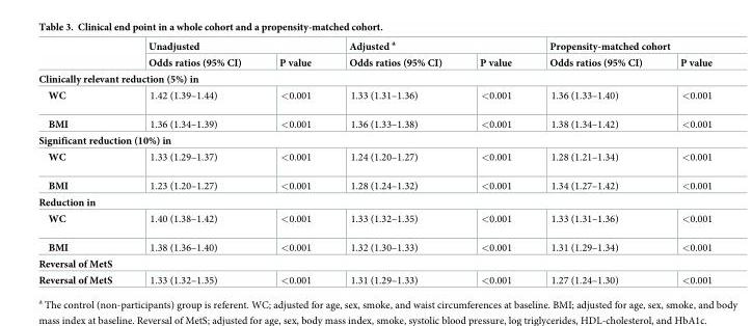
<table><thead><tr><td rowspan="2"></td><td colspan="2">Unadjusted</td><td colspan="2">Adjusted <sup>a</sup></td><td colspan="2">Propensity-matched cohort</td></tr><tr><td>Odds ratios (95% CI)</td><td>P value</td><td>Odds ratios (95% CI)</td><td>P value</td><td>Odds ratios (95% CI)</td><td>P value</td></tr></thead><tbody><tr><td colspan="7">Clinically relevant reduction (5%) in</td></tr><tr><td>WC</td><td>1.42 (1.39–1.44)</td><td>&lt;0.001</td><td>1.33 (1.31–1.36)</td><td>&lt;0.001</td><td>1.36 (1.33–1.40)</td><td>&lt;0.001</td></tr><tr><td>BMI</td><td>1.36 (1.34–1.39)</td><td>&lt;0.001</td><td>1.36 (1.33–1.38)</td><td>&lt;0.001</td><td>1.38 (1.34–1.42)</td><td>&lt;0.001</td></tr><tr><td colspan="7">Significant reduction (10%) in</td></tr><tr><td>WC</td><td>1.33 (1.29–1.37)</td><td>&lt;0.001</td><td>1.24 (1.20–1.27)</td><td>&lt;0.001</td><td>1.28 (1.21–1.34)</td><td>&lt;0.001</td></tr><tr><td>BMI</td><td>1.23 (1.20–1.27)</td><td>&lt;0.001</td><td>1.28 (1.24–1.32)</td><td>&lt;0.001</td><td>1.34 (1.27–1.42)</td><td>&lt;0.001</td></tr><tr><td colspan="7">Reduction in</td></tr><tr><td>WC</td><td>1.40 (1.38–1.42)</td><td>&lt;0.001</td><td>1.33 (1.32–1.35)</td><td>&lt;0.001</td><td>1.33 (1.31–1.36)</td><td>&lt;0.001</td></tr><tr><td>BMI</td><td>1.38 (1.36–1.40)</td><td>&lt;0.001</td><td>1.32 (1.30–1.33)</td><td>&lt;0.001</td><td>1.31 (1.29–1.34)</td><td>&lt;0.001</td></tr><tr><td colspan="7">Reversal of MetS</td></tr><tr><td>Reversal of MetS</td><td>1.33 (1.32–1.35)</td><td>&lt;0.001</td><td>1.31 (1.29–1.33)</td><td>&lt;0.001</td><td>1.27 (1.24–1.30)</td><td>&lt;0.001</td></tr></tbody></table>